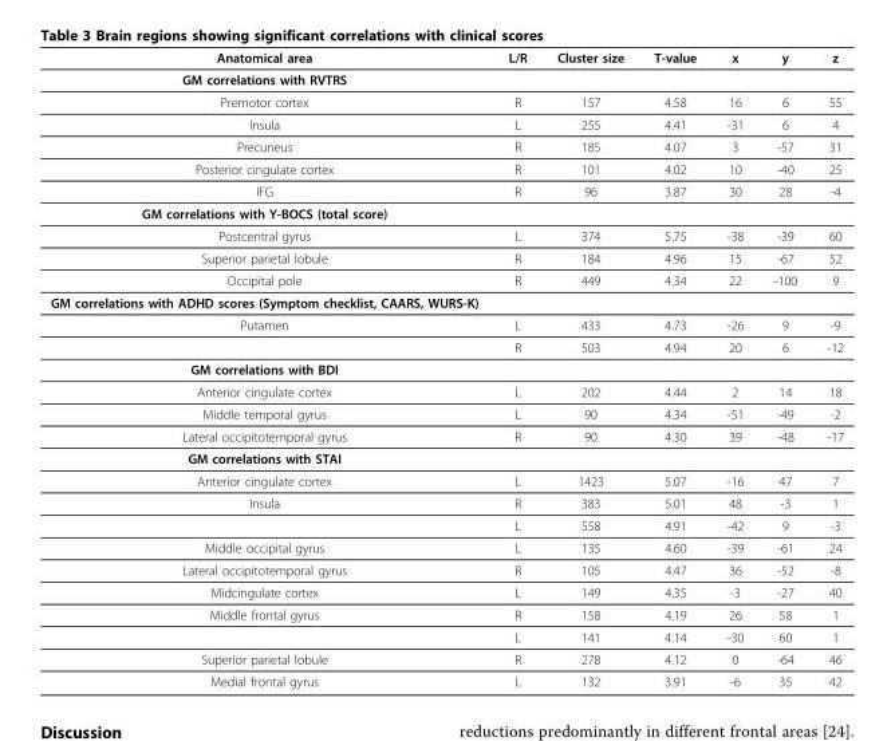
<table><thead><tr><td>Anatomical area</td><td>L/R</td><td>Cluster size</td><td>T-value</td><td>x</td><td>y</td><td>z</td></tr></thead><tbody><tr><td colspan="7">GM correlations with RVTRS</td></tr><tr><td>Premotor cortex</td><td>R</td><td>157</td><td>4.58</td><td>16</td><td>6</td><td>55</td></tr><tr><td>Insula</td><td>L</td><td>255</td><td>4.41</td><td>-31</td><td>6</td><td>4</td></tr><tr><td>Precuneus</td><td>R</td><td>185</td><td>4.07</td><td>3</td><td>-57</td><td>31</td></tr><tr><td>Posterior cingulate cortex</td><td>R</td><td>101</td><td>4.02</td><td>10</td><td>-40</td><td>25</td></tr><tr><td>IFG</td><td>R</td><td>96</td><td>3.87</td><td>30</td><td>28</td><td>-4</td></tr><tr><td colspan="7">GM correlations with Y-BOCS (total score)</td></tr><tr><td>Postcentral gyrus</td><td>L</td><td>374</td><td>5.75</td><td>-38</td><td>-39</td><td>60</td></tr><tr><td>Superior parietal lobule</td><td>R</td><td>184</td><td>4.96</td><td>15</td><td>-67</td><td>52</td></tr><tr><td>Occipital pole</td><td>R</td><td>449</td><td>4.34</td><td>22</td><td>-100</td><td>9</td></tr><tr><td colspan="7">GM correlations with ADHD scores (Symptom checklist, CAARS, WURS-K)</td></tr><tr><td rowspan="2">Putamen</td><td>L</td><td>433</td><td>4.73</td><td>-26</td><td>9</td><td>-9</td></tr><tr><td>R</td><td>503</td><td>4.94</td><td>20</td><td>6</td><td>-12</td></tr><tr><td colspan="7">GM correlations with BDI</td></tr><tr><td>Anterior cingulate cortex</td><td>L</td><td>202</td><td>4.44</td><td>2</td><td>14</td><td>18</td></tr><tr><td>Middle temporal gyrus</td><td>L</td><td>90</td><td>4.34</td><td>-51</td><td>-49</td><td>-2</td></tr><tr><td>Lateral occipitotemporal gyrus</td><td>R</td><td>90</td><td>4.30</td><td>39</td><td>-48</td><td>-17</td></tr><tr><td colspan="7">GM correlations with STAI</td></tr><tr><td>Anterior cingulate cortex</td><td>L</td><td>1423</td><td>5.07</td><td>-16</td><td>47</td><td>7</td></tr><tr><td rowspan="2">Insula</td><td>R</td><td>383</td><td>5.01</td><td>48</td><td>-3</td><td>1</td></tr><tr><td>L</td><td>558</td><td>4.91</td><td>-42</td><td>9</td><td>-3</td></tr><tr><td>Middle occipital gyrus</td><td>L</td><td>135</td><td>4.60</td><td>-39</td><td>-61</td><td>24</td></tr><tr><td>Lateral occipitotemporal gyrus</td><td>R</td><td>105</td><td>4.47</td><td>36</td><td>-52</td><td>-8</td></tr><tr><td>Midcingulate cortex</td><td>L</td><td>149</td><td>4.35</td><td>-3</td><td>-27</td><td>40</td></tr><tr><td rowspan="2">Middle frontal gyrus</td><td>R</td><td>158</td><td>4.19</td><td>26</td><td>58</td><td>1</td></tr><tr><td>L</td><td>141</td><td>4.14</td><td>-30</td><td>60</td><td>1</td></tr><tr><td>Superior parietal lobule</td><td>R</td><td>278</td><td>4.12</td><td>0</td><td>-64</td><td>46</td></tr><tr><td>Medial frontal gyrus</td><td>L</td><td>132</td><td>3.91</td><td>-6</td><td>35</td><td>42</td></tr></tbody></table>